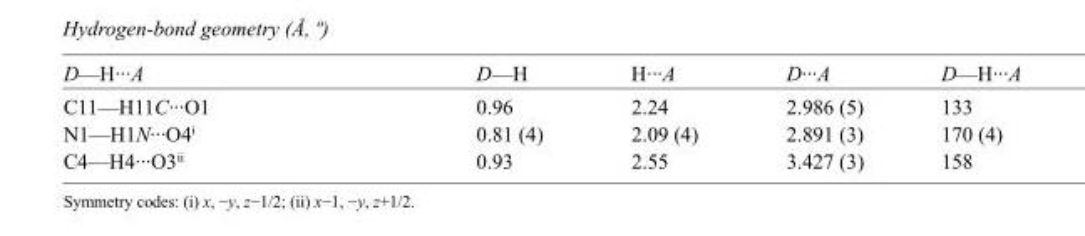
<table><tbody><tr><td>D—H···A</td><td>D—H</td><td>H···A</td><td>D···A</td><td>D—H···A</td></tr><tr><td>C11—H11C···O1</td><td>0.96</td><td>2.24</td><td>2.986 (5)</td><td>133</td></tr><tr><td>N1—H1N···O4<sup>i</sup></td><td>0.81 (4)</td><td>2.09 (4)</td><td>2.891 (3)</td><td>170 (4)</td></tr><tr><td>C4—H4···O3<sup>ii</sup></td><td>0.93</td><td>2.55</td><td>3.427 (3)</td><td>158</td></tr></tbody></table>